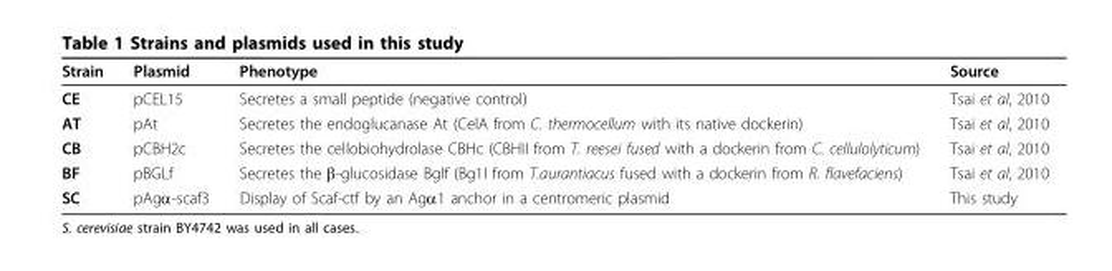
<table><thead><tr><td>Strain</td><td>Plasmid</td><td>Phenotype</td><td>Source</td></tr></thead><tbody><tr><td>CE</td><td>pCEL15</td><td>Secretes a small peptide (negative control)</td><td>Tsai et al, 2010</td></tr><tr><td>AT</td><td>pAt</td><td>Secretes the endoglucanase At (CelA from C. thermocellum with its native dockerin)</td><td>Tsai et al, 2010</td></tr><tr><td>CB</td><td>pCBH2c</td><td>Secretes the cellobiohydrolase CBHc (CBHII from T. reesei fused with a dockerin from C. cellulolyticum)</td><td>Tsai et al, 2010</td></tr><tr><td>BF</td><td>pBGLf</td><td>Secretes the β-glucosidase Bglf (Bg1I from T.aurantiacus fused with a dockerin from R. flavefaciens)</td><td>Tsai et al, 2010</td></tr><tr><td>SC</td><td>pAgα-scaf3</td><td>Display of Scaf-ctf by an Agα1 anchor in a centromeric plasmid</td><td>This study</td></tr></tbody></table>